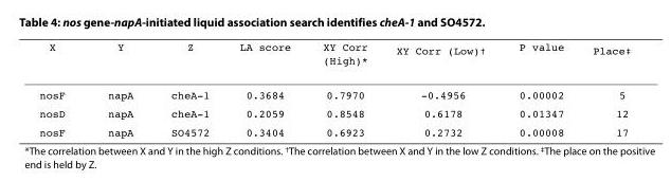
<table><thead><tr><td>X</td><td>Y</td><td>Z</td><td>LA score</td><td>XY Corr (High)*</td><td>XY Corr (Low)<sup>†</sup></td><td>P value</td><td>Place<sup>‡</sup></td></tr></thead><tbody><tr><td>nosF</td><td>napA</td><td>cheA-1</td><td>0.3684</td><td>0.7970</td><td>-0.4956</td><td>0.00002</td><td>5</td></tr><tr><td>nosD</td><td>napA</td><td>cheA-1</td><td>0.2059</td><td>0.8548</td><td>0.6178</td><td>0.01347</td><td>12</td></tr><tr><td>nosF</td><td>napA</td><td>SO4572</td><td>0.3404</td><td>0.6923</td><td>0.2732</td><td>0.00008</td><td>17</td></tr></tbody></table>